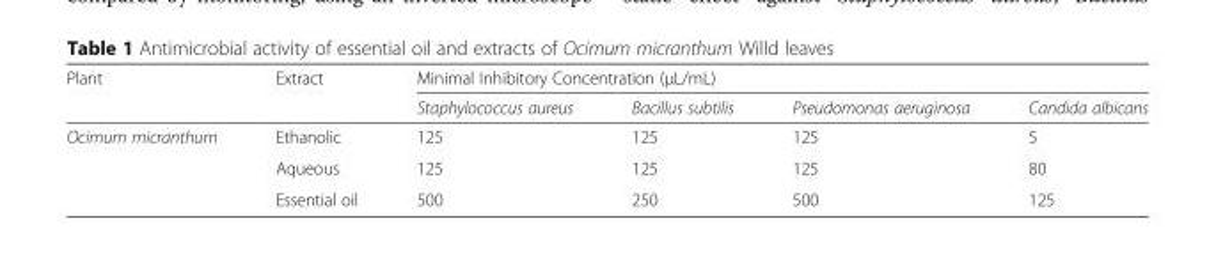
<table><thead><tr><td rowspan="2">Plant</td><td rowspan="2">Extract</td><td colspan="4">Minimal Inhibitory Concentration (μL/mL)</td></tr><tr><td>Staphylococcus aureus</td><td>Bacillus subtilis</td><td>Pseudomonas aeruginosa</td><td>Candida albicans</td></tr></thead><tbody><tr><td rowspan="3">Ocimum micranthum</td><td>Ethanolic</td><td>125</td><td>125</td><td>125</td><td>5</td></tr><tr><td>Aqueous</td><td>125</td><td>125</td><td>125</td><td>80</td></tr><tr><td>Essential oil</td><td>500</td><td>250</td><td>500</td><td>125</td></tr></tbody></table>